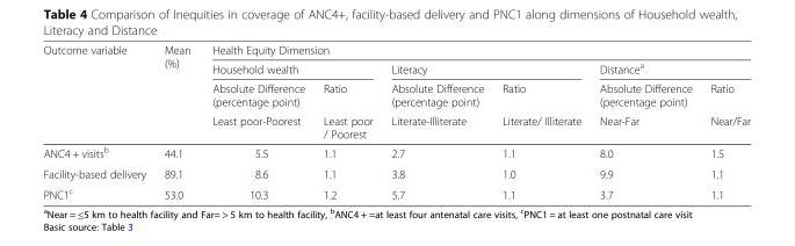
<table><thead><tr><td rowspan="4">Outcome variable</td><td rowspan="4">Mean (%)</td><td colspan="6">Health Equity Dimension</td></tr><tr><td colspan="2">Household wealth</td><td colspan="2">Literacy</td><td colspan="2">Distance<sup>a</sup></td></tr><tr><td rowspan="2">Absolute Difference (percentage point) Least poor-Poorest</td><td rowspan="2">Ratio Least poor / Poorest</td><td rowspan="2">Absolute Difference (percentage point) Literate-Illiterate</td><td rowspan="2">Ratio Literate/ Illiterate</td><td rowspan="2">Absolute Difference (percentage point) Near-Far</td><td rowspan="2">Ratio Near/Far</td></tr><tr></tr></thead><tbody><tr><td>ANC4 + visits<sup>b</sup></td><td>44.1</td><td>5.5</td><td>1.1</td><td>2.7</td><td>1.1</td><td>8.0</td><td>1.5</td></tr><tr><td>Facility-based delivery</td><td>89.1</td><td>8.6</td><td>1.1</td><td>3.8</td><td>1.0</td><td>9.9</td><td>1.1</td></tr><tr><td>PNC1<sup>c</sup></td><td>53.0</td><td>10.3</td><td>1.2</td><td>5.7</td><td>1.1</td><td>3.7</td><td>1.1</td></tr></tbody></table>